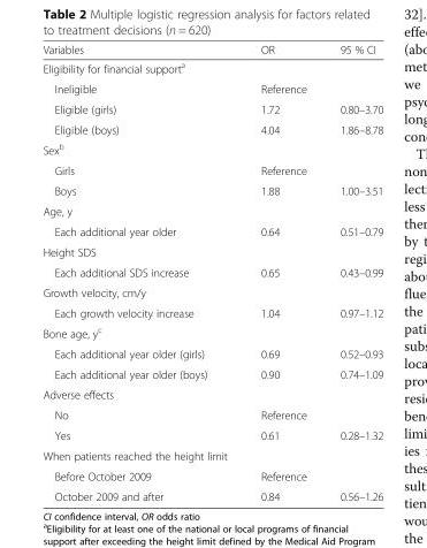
<table><thead><tr><td>Variables</td><td>OR</td><td>95 % CI</td></tr></thead><tbody><tr><td colspan="3">Eligibility for financial support<sup>a</sup></td></tr><tr><td>Ineligible</td><td>Reference</td><td></td></tr><tr><td>Eligible (girls)</td><td>1.72</td><td>0.80–3.70</td></tr><tr><td>Eligible (boys)</td><td>4.04</td><td>1.86–8.78</td></tr><tr><td colspan="3">Sex<sup>b</sup></td></tr><tr><td>Girls</td><td>Reference</td><td></td></tr><tr><td>Boys</td><td>1.88</td><td>1.00–3.51</td></tr><tr><td colspan="3">Age, y</td></tr><tr><td>Each additional year older</td><td>0.64</td><td>0.51–0.79</td></tr><tr><td colspan="3">Height SDS</td></tr><tr><td>Each additional SDS increase</td><td>0.65</td><td>0.43–0.99</td></tr><tr><td colspan="3">Growth velocity, cm/y</td></tr><tr><td>Each growth velocity increase</td><td>1.04</td><td>0.97–1.12</td></tr><tr><td colspan="3">Bone age, y<sup>c</sup></td></tr><tr><td>Each additional year older (girls)</td><td>0.69</td><td>0.52–0.93</td></tr><tr><td>Each additional year older (boys)</td><td>0.90</td><td>0.74–1.09</td></tr><tr><td colspan="3">Adverse effects</td></tr><tr><td>No</td><td>Reference</td><td></td></tr><tr><td>Yes</td><td>0.61</td><td>0.28–1.32</td></tr><tr><td colspan="3">When patients reached the height limit</td></tr><tr><td>Before October 2009</td><td>Reference</td><td></td></tr><tr><td>October 2009 and after</td><td>0.84</td><td>0.56–1.26</td></tr></tbody></table>